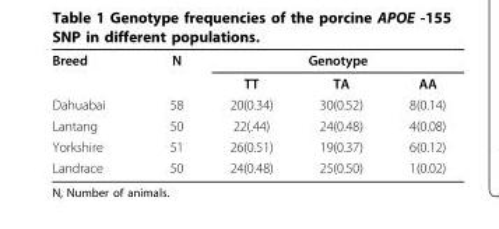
<table><tbody><tr><td rowspan="2">Breed</td><td>N</td><td colspan="3">Genotype</td></tr><tr><td></td><td>TT</td><td>TA</td><td>AA</td></tr><tr><td>Dahuabai</td><td>58</td><td>20(0.34)</td><td>30(0.52)</td><td>8(0.14)</td></tr><tr><td>Lantang</td><td>50</td><td>22(.44)</td><td>24(0.48)</td><td>4(0.08)</td></tr><tr><td>Yorkshire</td><td>51</td><td>26(0.51)</td><td>19(0.37)</td><td>6(0.12)</td></tr><tr><td>Landrace</td><td>50</td><td>24(0.48)</td><td>25(0.50)</td><td>1(0.02)</td></tr></tbody></table>